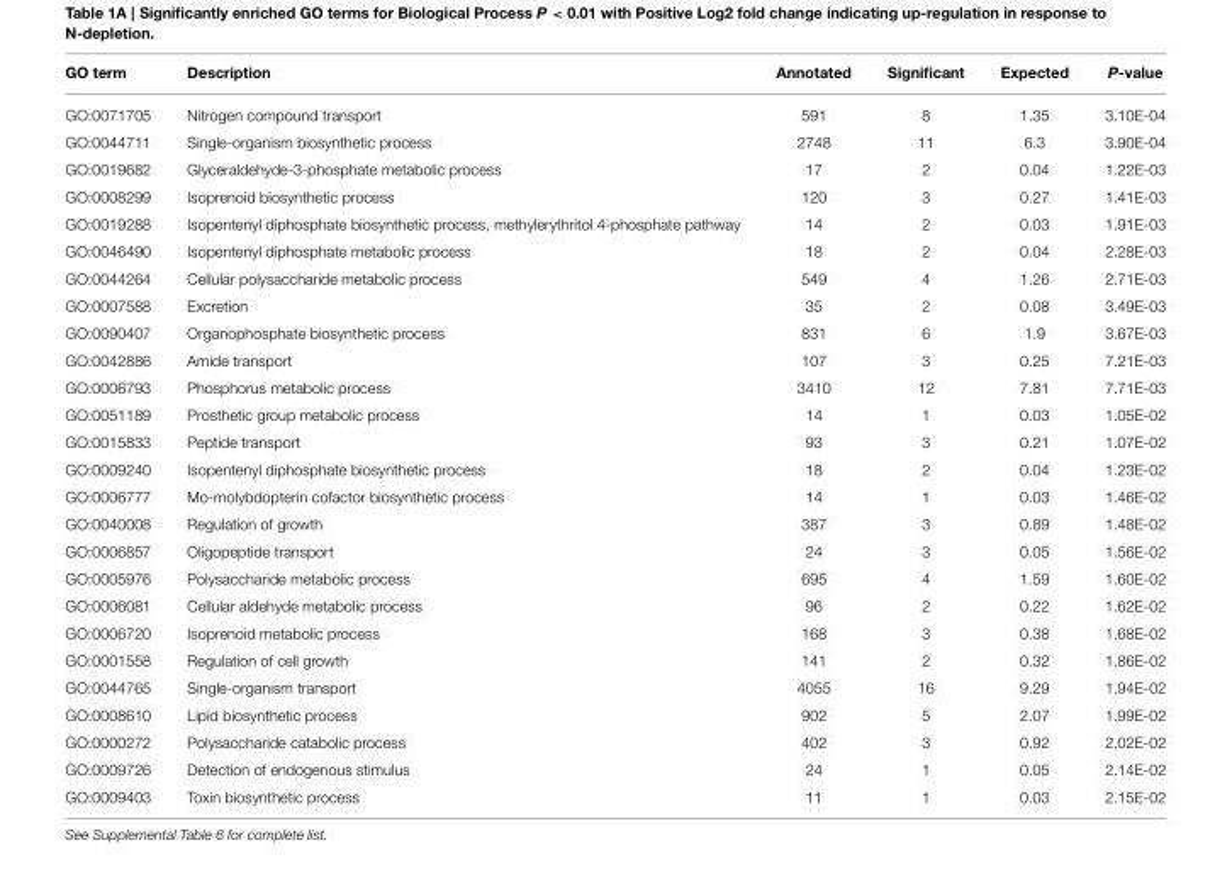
<table><thead><tr><td>GO term</td><td>Description</td><td>Annotated</td><td>Significant</td><td>Expected</td><td>P-value</td></tr></thead><tbody><tr><td>GO:0071705</td><td>Nitrogen compound transport</td><td>591</td><td>8</td><td>1.35</td><td>3.10E-04</td></tr><tr><td>GO:0044711</td><td>Single-organism biosynthetic process</td><td>2748</td><td>11</td><td>6.3</td><td>3.90E-04</td></tr><tr><td>GO:0019682</td><td>Glyceraldehyde-3-phosphate metabolic process</td><td>17</td><td>2</td><td>0.04</td><td>1.22E-03</td></tr><tr><td>GO:0008299</td><td>Isoprenoid biosynthetic process</td><td>120</td><td>3</td><td>0.27</td><td>1.41E-03</td></tr><tr><td>GO:0019288</td><td>Isopentenyl diphosphate biosynthetic process, methylerythritol 4-phosphate pathway</td><td>14</td><td>2</td><td>0.03</td><td>1.91E-03</td></tr><tr><td>GO:0046490</td><td>Isopentenyl diphosphate metabolic process</td><td>18</td><td>2</td><td>0.04</td><td>2.28E-03</td></tr><tr><td>GO:0044264</td><td>Cellular polysaccharide metabolic process</td><td>549</td><td>4</td><td>1.26</td><td>2.71E-03</td></tr><tr><td>GO:0007588</td><td>Excretion</td><td>35</td><td>2</td><td>0.08</td><td>3.49E-03</td></tr><tr><td>GO:0090407</td><td>Organophosphate biosynthetic process</td><td>831</td><td>6</td><td>1.9</td><td>3.67E-03</td></tr><tr><td>GO:0042886</td><td>Amide transport</td><td>107</td><td>3</td><td>0.25</td><td>7.21E-03</td></tr><tr><td>GO:0006793</td><td>Phosphorus metabolic process</td><td>3410</td><td>12</td><td>7.81</td><td>7.71E-03</td></tr><tr><td>GO:0051189</td><td>Prosthetic group metabolic process</td><td>14</td><td>1</td><td>0.03</td><td>1.05E-02</td></tr><tr><td>GO:0015833</td><td>Peptide transport</td><td>93</td><td>3</td><td>0.21</td><td>1.07E-02</td></tr><tr><td>GO:0009240</td><td>Isopentenyl diphosphate biosynthetic process</td><td>18</td><td>2</td><td>0.04</td><td>1.23E-02</td></tr><tr><td>GO:0006777</td><td>Mo-molybdopterin cofactor biosynthetic process</td><td>14</td><td>1</td><td>0.03</td><td>1.46E-02</td></tr><tr><td>GO:0040008</td><td>Regulation of growth</td><td>387</td><td>3</td><td>0.89</td><td>1.48E-02</td></tr><tr><td>GO:0006857</td><td>Oligopeptide transport</td><td>24</td><td>3</td><td>0.05</td><td>1.56E-02</td></tr><tr><td>GO:0005976</td><td>Polysaccharide metabolic process</td><td>695</td><td>4</td><td>1.59</td><td>1.60E-02</td></tr><tr><td>GO:0006081</td><td>Cellular aldehyde metabolic process</td><td>96</td><td>2</td><td>0.22</td><td>1.62E-02</td></tr><tr><td>GO:0006720</td><td>Isoprenoid metabolic process</td><td>168</td><td>3</td><td>0.38</td><td>1.68E-02</td></tr><tr><td>GO:0001558</td><td>Regulation of cell growth</td><td>141</td><td>2</td><td>0.32</td><td>1.86E-02</td></tr><tr><td>GO:0044765</td><td>Single-organism transport</td><td>4055</td><td>16</td><td>9.29</td><td>1.94E-02</td></tr><tr><td>GO:0008610</td><td>Lipid biosynthetic process</td><td>902</td><td>5</td><td>2.07</td><td>1.99E-02</td></tr><tr><td>GO:0000272</td><td>Polysaccharide catabolic process</td><td>402</td><td>3</td><td>0.92</td><td>2.02E-02</td></tr><tr><td>GO:0009726</td><td>Detection of endogenous stimulus</td><td>24</td><td>1</td><td>0.05</td><td>2.14E-02</td></tr><tr><td>GO:0009403</td><td>Toxin biosynthetic process</td><td>11</td><td>1</td><td>0.03</td><td>2.15E-02</td></tr></tbody></table>